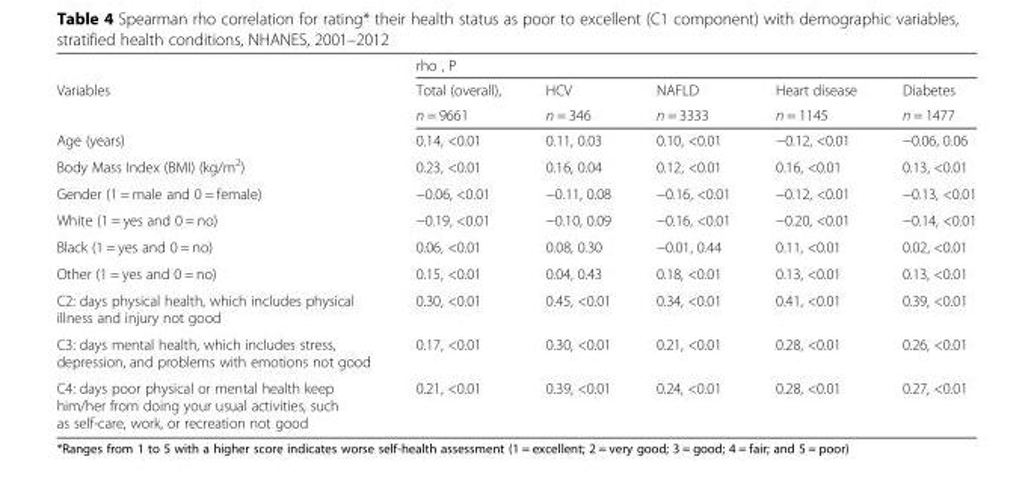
<table><thead><tr><td rowspan="3">Variables</td><td colspan="5">rho , P</td></tr><tr><td rowspan="2">Total (overall), n = 9661</td><td rowspan="2">HCV n = 346</td><td rowspan="2">NAFLD n = 3333</td><td rowspan="2">Heart disease n = 1145</td><td rowspan="2">Diabetes n = 1477</td></tr><tr></tr></thead><tbody><tr><td>Age (years)</td><td>0.14, &lt;0.01</td><td>0.11, 0.03</td><td>0.10, &lt;0.01</td><td>−0.12, &lt;0.01</td><td>−0.06, 0.06</td></tr><tr><td>Body Mass Index (BMI) (kg/m<sup>2</sup>)</td><td>0.23, &lt;0.01</td><td>0.16, 0.04</td><td>0.12, &lt;0.01</td><td>0.16, &lt;0.01</td><td>0.13, &lt;0.01</td></tr><tr><td>Gender (1 = male and 0 = female)</td><td>−0.06, &lt;0.01</td><td>−0.11, 0.08</td><td>−0.16, &lt;0.01</td><td>−0.12, &lt;0.01</td><td>−0.13, &lt;0.01</td></tr><tr><td>White (1 = yes and 0 = no)</td><td>−0.19, &lt;0.01</td><td>−0.10, 0.09</td><td>−0.16, &lt;0.01</td><td>−0.20, &lt;0.01</td><td>−0.14, &lt;0.01</td></tr><tr><td>Black (1 = yes and 0 = no)</td><td>0.06, &lt;0.01</td><td>0.08, 0.30</td><td>−0.01, 0.44</td><td>0.11, &lt;0.01</td><td>0.02, &lt;0.01</td></tr><tr><td>Other (1 = yes and 0 = no)</td><td>0.15, &lt;0.01</td><td>0.04, 0.43</td><td>0.18, &lt;0.01</td><td>0.13, &lt;0.01</td><td>0.13, &lt;0.01</td></tr><tr><td>C2: days physical health, which includes physical illness and injury not good</td><td>0.30, &lt;0.01</td><td>0.45, &lt;0.01</td><td>0.34, &lt;0.01</td><td>0.41, &lt;0.01</td><td>0.39, &lt;0.01</td></tr><tr><td>C3: days mental health, which includes stress, depression, and problems with emotions not good</td><td>0.17, &lt;0.01</td><td>0.30, &lt;0.01</td><td>0.21, &lt;0.01</td><td>0.28, &lt;0.01</td><td>0.26, &lt;0.01</td></tr><tr><td>C4: days poor physical or mental health keep him/her from doing your usual activities, such as self-care, work, or recreation not good</td><td>0.21, &lt;0.01</td><td>0.39, &lt;0.01</td><td>0.24, &lt;0.01</td><td>0.28, &lt;0.01</td><td>0.27, &lt;0.01</td></tr></tbody></table>